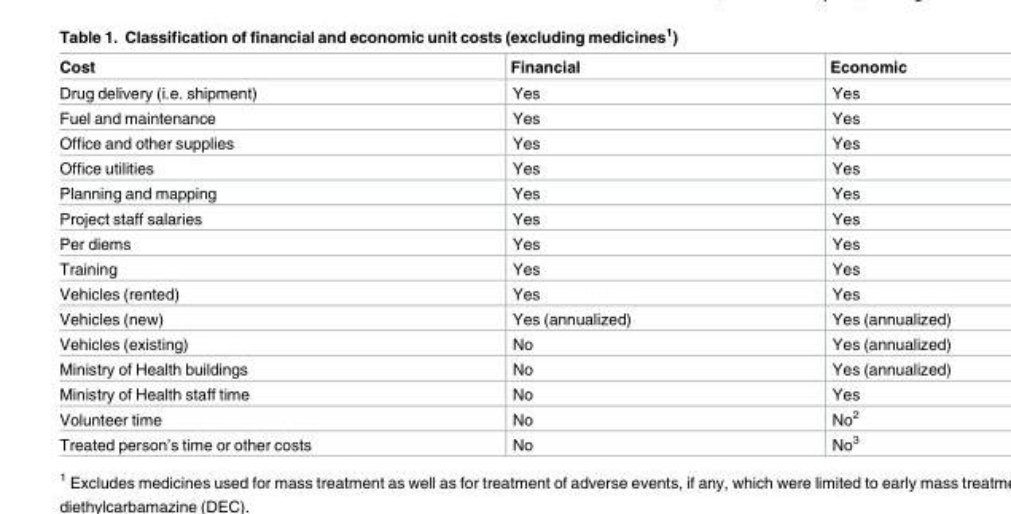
<table><thead><tr><td>Cost</td><td>Financial</td><td>Economic</td></tr></thead><tbody><tr><td>Drug delivery (i.e. shipment)</td><td>Yes</td><td>Yes</td></tr><tr><td>Fuel and maintenance</td><td>Yes</td><td>Yes</td></tr><tr><td>Office and other supplies</td><td>Yes</td><td>Yes</td></tr><tr><td>Office utilities</td><td>Yes</td><td>Yes</td></tr><tr><td>Planning and mapping</td><td>Yes</td><td>Yes</td></tr><tr><td>Project staff salaries</td><td>Yes</td><td>Yes</td></tr><tr><td>Per diems</td><td>Yes</td><td>Yes</td></tr><tr><td>Training</td><td>Yes</td><td>Yes</td></tr><tr><td>Vehicles (rented)</td><td>Yes</td><td>Yes</td></tr><tr><td>Vehicles (new)</td><td>Yes (annualized)</td><td>Yes (annualized)</td></tr><tr><td>Vehicles (existing)</td><td>No</td><td>Yes (annualized)</td></tr><tr><td>Ministry of Health buildings</td><td>No</td><td>Yes (annualized)</td></tr><tr><td>Ministry of Health staff time</td><td>No</td><td>Yes</td></tr><tr><td>Volunteer time</td><td>No</td><td>No<sup>2</sup></td></tr><tr><td>Treated person’s time or other costs</td><td>No</td><td>No<sup>3</sup></td></tr></tbody></table>